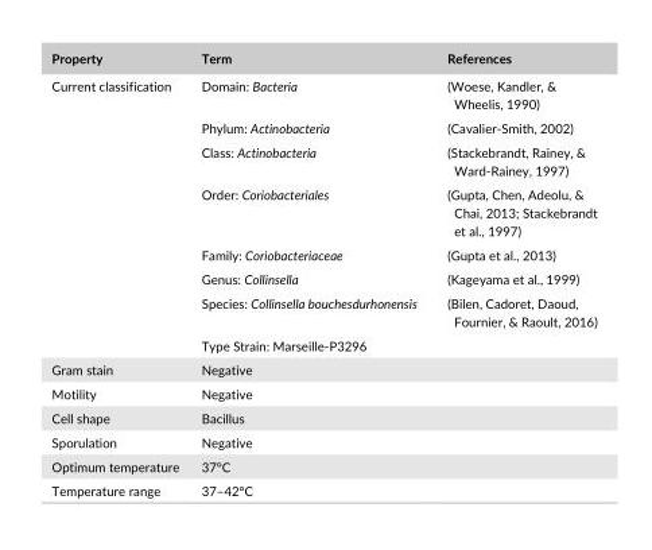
<table><thead><tr><td>Property</td><td>Term</td><td>References</td></tr></thead><tbody><tr><td rowspan="8">Current classification</td><td>Domain: Bacteria</td><td>(Woese, Kandler, &amp; Wheelis, 1990)</td></tr><tr><td>Phylum: Actinobacteria</td><td>(Cavalier- Smith, 2002)</td></tr><tr><td>Class: Actinobacteria</td><td>(Stackebrandt, Rainey, &amp; Ward- Rainey, 1997)</td></tr><tr><td>Order: Coriobacteriales</td><td>(Gupta, Chen, Adeolu, &amp; Chai, 2013; Stackebrandt et al., 1997)</td></tr><tr><td>Family: Coriobacteriaceae</td><td>(Gupta et al., 2013)</td></tr><tr><td>Genus: Collinsella</td><td>(Kageyama et al., 1999)</td></tr><tr><td>Species: Collinsella bouchesdurhonensis</td><td>(Bilen, Cadoret, Daoud, Fournier, &amp; Raoult, 2016)</td></tr><tr><td>Type Strain: Marseille- P3296</td><td></td></tr><tr><td>Gram stain</td><td>Negative</td><td></td></tr><tr><td>Motility</td><td>Negative</td><td></td></tr><tr><td>Cell shape</td><td>Bacillus</td><td></td></tr><tr><td>Sporulation</td><td>Negative</td><td></td></tr><tr><td>Optimum temperature</td><td>37°C</td><td></td></tr><tr><td>Temperature range</td><td>37–42°C</td><td></td></tr></tbody></table>